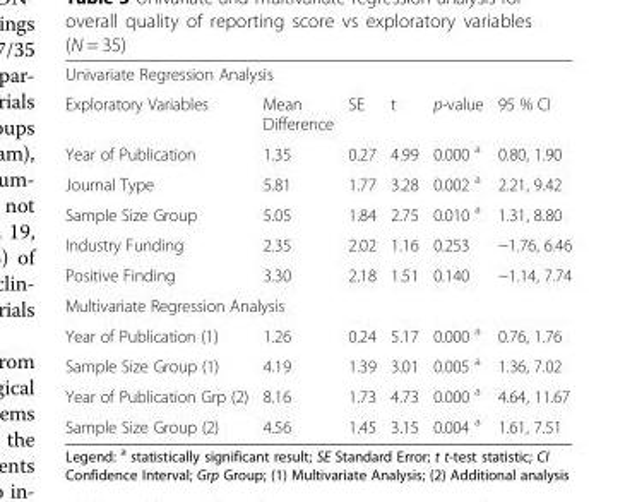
<table><tbody><tr><td colspan="6">Univariate Regression Analysis</td></tr><tr><td>Exploratory Variables</td><td>Mean Difference</td><td>SE</td><td>t</td><td>p-value</td><td>95 % CI</td></tr><tr><td>Year of Publication</td><td>1.35</td><td>0.27</td><td>4.99</td><td>0.000 <sup>a</sup></td><td>0.80, 1.90</td></tr><tr><td>Journal Type</td><td>5.81</td><td>1.77</td><td>3.28</td><td>0.002 <sup>a</sup></td><td>2.21, 9.42</td></tr><tr><td>Sample Size Group</td><td>5.05</td><td>1.84</td><td>2.75</td><td>0.010 <sup>a</sup></td><td>1.31, 8.80</td></tr><tr><td>Industry Funding</td><td>2.35</td><td>2.02</td><td>1.16</td><td>0.253</td><td>−1.76, 6.46</td></tr><tr><td>Positive Finding</td><td>3.30</td><td>2.18</td><td>1.51</td><td>0.140</td><td>−1.14, 7.74</td></tr><tr><td colspan="6">Multivariate Regression Analysis</td></tr><tr><td>Year of Publication (1)</td><td>1.26</td><td>0.24</td><td>5.17</td><td>0.000 <sup>a</sup></td><td>0.76, 1.76</td></tr><tr><td>Sample Size Group (1)</td><td>4.19</td><td>1.39</td><td>3.01</td><td>0.005 <sup>a</sup></td><td>1.36, 7.02</td></tr><tr><td>Year of Publication Grp (2)</td><td>8.16</td><td>1.73</td><td>4.73</td><td>0.000 <sup>a</sup></td><td>4.64, 11.67</td></tr><tr><td>Sample Size Group (2)</td><td>4.56</td><td>1.45</td><td>3.15</td><td>0.004 <sup>a</sup></td><td>1.61, 7.51</td></tr></tbody></table>